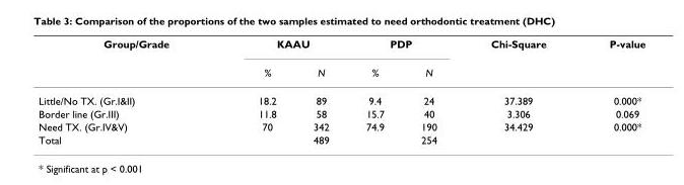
<table><thead><tr><td rowspan="2">Group/Grade</td><td colspan="2">KAAU</td><td colspan="2">PDP</td><td rowspan="2">Chi-Square</td><td rowspan="2">P-value</td></tr><tr><td>%</td><td>N</td><td>%</td><td>N</td></tr></thead><tbody><tr><td>Little/No TX. (Gr.I&amp;II)</td><td>18.2</td><td>89</td><td>9.4</td><td>24</td><td>37.389</td><td>0.000*</td></tr><tr><td>Border line (Gr.III)</td><td>11.8</td><td>58</td><td>15.7</td><td>40</td><td>3.306</td><td>0.069</td></tr><tr><td>Need TX. (Gr.IV&amp;V)</td><td>70</td><td>342</td><td>74.9</td><td>190</td><td>34.429</td><td>0.000*</td></tr><tr><td>Total</td><td></td><td>489</td><td></td><td>254</td><td></td><td></td></tr></tbody></table>